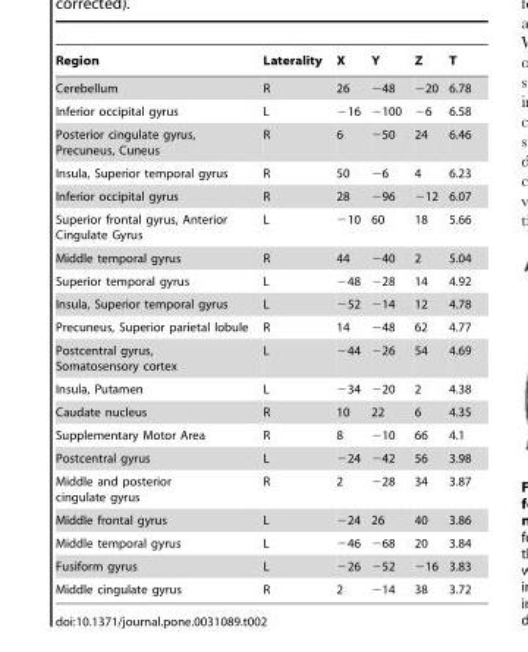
<table><thead><tr><td>Region</td><td>Laterality</td><td>X</td><td>Y</td><td>Z</td><td>T</td></tr></thead><tbody><tr><td>Cerebellum</td><td>R</td><td>26</td><td>−48</td><td>−20</td><td>6.78</td></tr><tr><td>Inferior occipital gyrus</td><td>L</td><td>−16</td><td>−100</td><td>−6</td><td>6.58</td></tr><tr><td>Posterior cingulate gyrus, Precuneus, Cuneus</td><td>R</td><td>6</td><td>−50</td><td>24</td><td>6.46</td></tr><tr><td>Insula, Superior temporal gyrus</td><td>R</td><td>50</td><td>−6</td><td>4</td><td>6.23</td></tr><tr><td>Inferior occipital gyrus</td><td>R</td><td>28</td><td>−96</td><td>−12</td><td>6.07</td></tr><tr><td>Superior frontal gyrus, Anterior Cingulate Gyrus</td><td>L</td><td>−10</td><td>60</td><td>18</td><td>5.66</td></tr><tr><td>Middle temporal gyrus</td><td>R</td><td>44</td><td>−40</td><td>2</td><td>5.04</td></tr><tr><td>Superior temporal gyrus</td><td>L</td><td>−48</td><td>−28</td><td>14</td><td>4.92</td></tr><tr><td>Insula, Superior temporal gyrus</td><td>L</td><td>−52</td><td>−14</td><td>12</td><td>4.78</td></tr><tr><td>Precuneus, Superior parietal lobule</td><td>R</td><td>14</td><td>−48</td><td>62</td><td>4.77</td></tr><tr><td>Postcentral gyrus, Somatosensory cortex</td><td>L</td><td>−44</td><td>−26</td><td>54</td><td>4.69</td></tr><tr><td>Insula, Putamen</td><td>L</td><td>−34</td><td>−20</td><td>2</td><td>4.38</td></tr><tr><td>Caudate nucleus</td><td>R</td><td>10</td><td>22</td><td>6</td><td>4.35</td></tr><tr><td>Supplementary Motor Area</td><td>R</td><td>8</td><td>−10</td><td>66</td><td>4.1</td></tr><tr><td>Postcentral gyrus</td><td>L</td><td>−24</td><td>−42</td><td>56</td><td>3.98</td></tr><tr><td>Middle and posterior cingulate gyrus</td><td>R</td><td>2</td><td>−28</td><td>34</td><td>3.87</td></tr><tr><td>Middle frontal gyrus</td><td>L</td><td>−24</td><td>26</td><td>40</td><td>3.86</td></tr><tr><td>Middle temporal gyrus</td><td>L</td><td>−46</td><td>−68</td><td>20</td><td>3.84</td></tr><tr><td>Fusiform gyrus</td><td>L</td><td>−26</td><td>−52</td><td>−16</td><td>3.83</td></tr><tr><td>Middle cingulate gyrus</td><td>R</td><td>2</td><td>−14</td><td>38</td><td>3.72</td></tr></tbody></table>